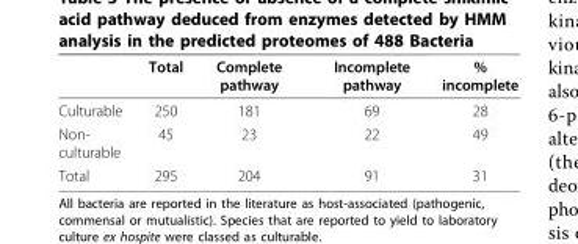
<table><thead><tr><td></td><td>Total</td><td>Complete pathway</td><td>Incomplete pathway</td><td>% incomplete</td></tr></thead><tbody><tr><td>Culturable</td><td>250</td><td>181</td><td>69</td><td>28</td></tr><tr><td>Non- culturable</td><td>45</td><td>23</td><td>22</td><td>49</td></tr><tr><td>Total</td><td>295</td><td>204</td><td>91</td><td>31</td></tr></tbody></table>